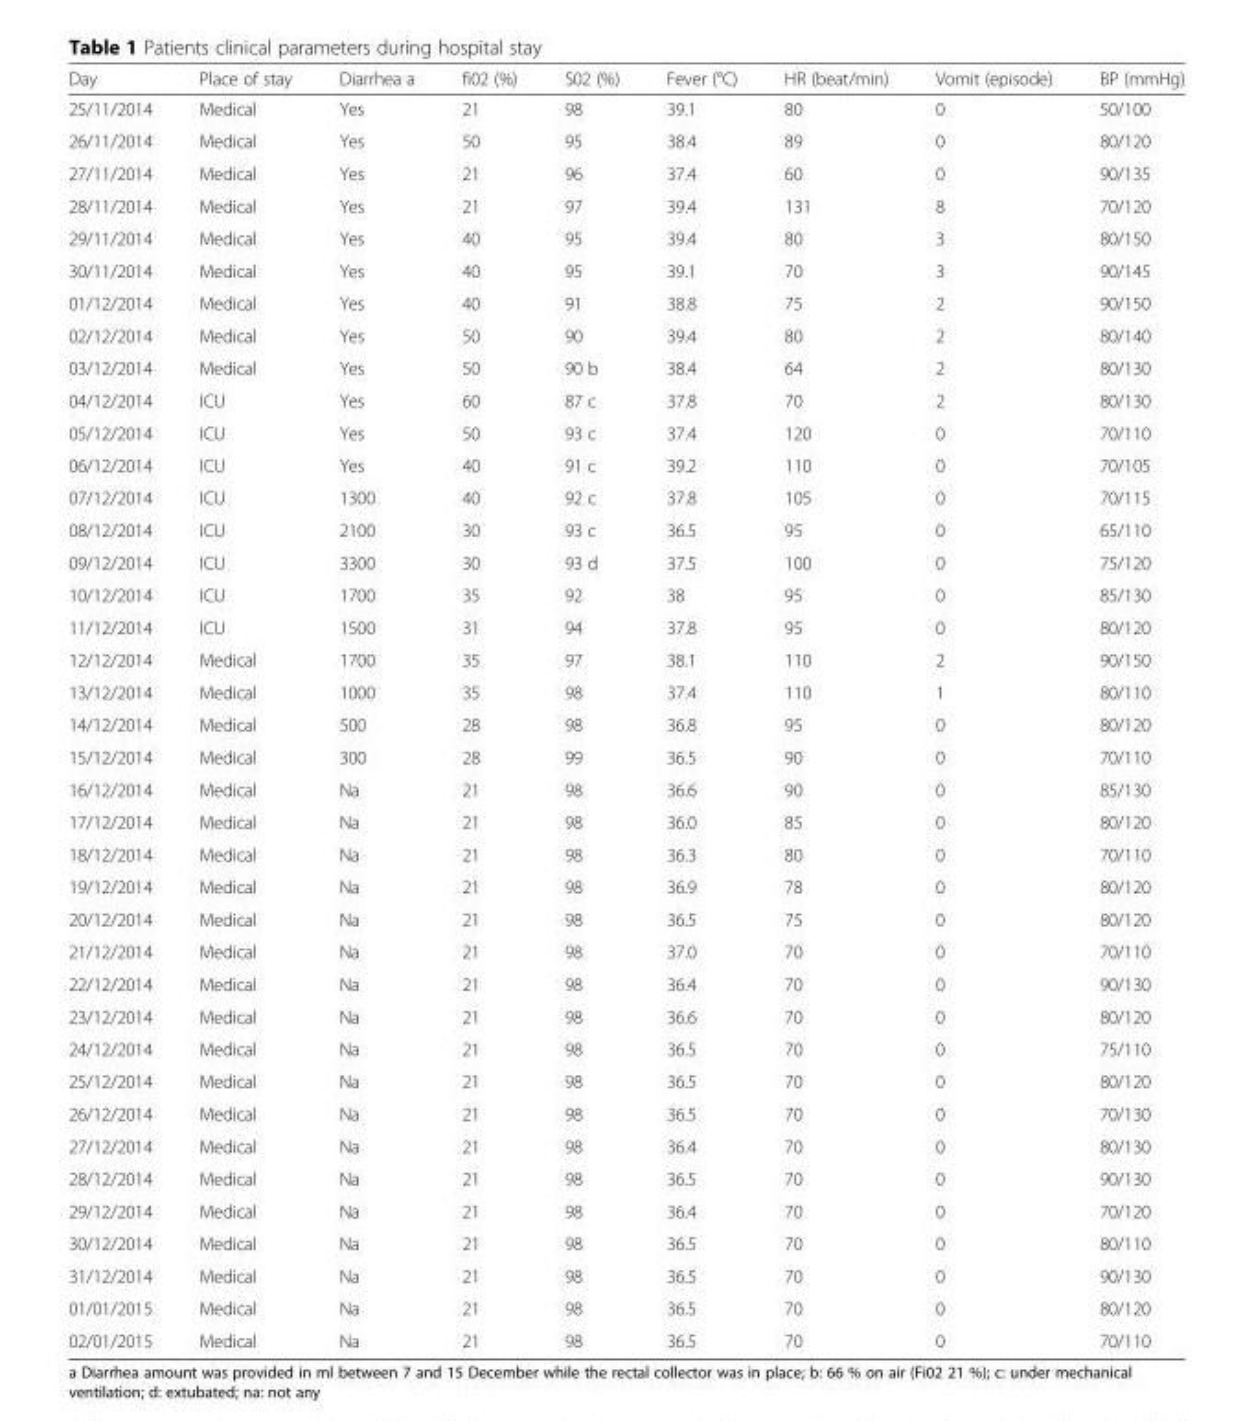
<table><thead><tr><td>Day</td><td>Place of stay</td><td>Diarrhea a</td><td>fi02 (%)</td><td>S02 (%)</td><td>Fever (°C)</td><td>HR (beat/min)</td><td>Vomit (episode)</td><td>BP (mmHg)</td></tr></thead><tbody><tr><td>25/11/2014</td><td>Medical</td><td>Yes</td><td>21</td><td>98</td><td>39.1</td><td>80</td><td>0</td><td>50/100</td></tr><tr><td>26/11/2014</td><td>Medical</td><td>Yes</td><td>50</td><td>95</td><td>38.4</td><td>89</td><td>0</td><td>80/120</td></tr><tr><td>27/11/2014</td><td>Medical</td><td>Yes</td><td>21</td><td>96</td><td>37.4</td><td>60</td><td>0</td><td>90/135</td></tr><tr><td>28/11/2014</td><td>Medical</td><td>Yes</td><td>21</td><td>97</td><td>39.4</td><td>131</td><td>8</td><td>70/120</td></tr><tr><td>29/11/2014</td><td>Medical</td><td>Yes</td><td>40</td><td>95</td><td>39.4</td><td>80</td><td>3</td><td>80/150</td></tr><tr><td>30/11/2014</td><td>Medical</td><td>Yes</td><td>40</td><td>95</td><td>39.1</td><td>70</td><td>3</td><td>90/145</td></tr><tr><td>01/12/2014</td><td>Medical</td><td>Yes</td><td>40</td><td>91</td><td>38.8</td><td>75</td><td>2</td><td>90/150</td></tr><tr><td>02/12/2014</td><td>Medical</td><td>Yes</td><td>50</td><td>90</td><td>39.4</td><td>80</td><td>2</td><td>80/140</td></tr><tr><td>03/12/2014</td><td>Medical</td><td>Yes</td><td>50</td><td>90 b</td><td>38.4</td><td>64</td><td>2</td><td>80/130</td></tr><tr><td>04/12/2014</td><td>ICU</td><td>Yes</td><td>60</td><td>87 c</td><td>37.8</td><td>70</td><td>2</td><td>80/130</td></tr><tr><td>05/12/2014</td><td>ICU</td><td>Yes</td><td>50</td><td>93 c</td><td>37.4</td><td>120</td><td>0</td><td>70/110</td></tr><tr><td>06/12/2014</td><td>ICU</td><td>Yes</td><td>40</td><td>91 c</td><td>39.2</td><td>110</td><td>0</td><td>70/105</td></tr><tr><td>07/12/2014</td><td>ICU</td><td>1300</td><td>40</td><td>92 c</td><td>37.8</td><td>105</td><td>0</td><td>70/115</td></tr><tr><td>08/12/2014</td><td>ICU</td><td>2100</td><td>30</td><td>93 c</td><td>36.5</td><td>95</td><td>0</td><td>65/110</td></tr><tr><td>09/12/2014</td><td>ICU</td><td>3300</td><td>30</td><td>93 d</td><td>37.5</td><td>100</td><td>0</td><td>75/120</td></tr><tr><td>10/12/2014</td><td>ICU</td><td>1700</td><td>35</td><td>92</td><td>38</td><td>95</td><td>0</td><td>85/130</td></tr><tr><td>11/12/2014</td><td>ICU</td><td>1500</td><td>31</td><td>94</td><td>37.8</td><td>95</td><td>0</td><td>80/120</td></tr><tr><td>12/12/2014</td><td>Medical</td><td>1700</td><td>35</td><td>97</td><td>38.1</td><td>110</td><td>2</td><td>90/150</td></tr><tr><td>13/12/2014</td><td>Medical</td><td>1000</td><td>35</td><td>98</td><td>37.4</td><td>110</td><td>1</td><td>80/110</td></tr><tr><td>14/12/2014</td><td>Medical</td><td>500</td><td>28</td><td>98</td><td>36.8</td><td>95</td><td>0</td><td>80/120</td></tr><tr><td>15/12/2014</td><td>Medical</td><td>300</td><td>28</td><td>99</td><td>36.5</td><td>90</td><td>0</td><td>70/110</td></tr><tr><td>16/12/2014</td><td>Medical</td><td>Na</td><td>21</td><td>98</td><td>36.6</td><td>90</td><td>0</td><td>85/130</td></tr><tr><td>17/12/2014</td><td>Medical</td><td>Na</td><td>21</td><td>98</td><td>36.0</td><td>85</td><td>0</td><td>80/120</td></tr><tr><td>18/12/2014</td><td>Medical</td><td>Na</td><td>21</td><td>98</td><td>36.3</td><td>80</td><td>0</td><td>70/110</td></tr><tr><td>19/12/2014</td><td>Medical</td><td>Na</td><td>21</td><td>98</td><td>36.9</td><td>78</td><td>0</td><td>80/120</td></tr><tr><td>20/12/2014</td><td>Medical</td><td>Na</td><td>21</td><td>98</td><td>36.5</td><td>75</td><td>0</td><td>80/120</td></tr><tr><td>21/12/2014</td><td>Medical</td><td>Na</td><td>21</td><td>98</td><td>37.0</td><td>70</td><td>0</td><td>70/110</td></tr><tr><td>22/12/2014</td><td>Medical</td><td>Na</td><td>21</td><td>98</td><td>36.4</td><td>70</td><td>0</td><td>90/130</td></tr><tr><td>23/12/2014</td><td>Medical</td><td>Na</td><td>21</td><td>98</td><td>36.6</td><td>70</td><td>0</td><td>80/120</td></tr><tr><td>24/12/2014</td><td>Medical</td><td>Na</td><td>21</td><td>98</td><td>36.5</td><td>70</td><td>0</td><td>75/110</td></tr><tr><td>25/12/2014</td><td>Medical</td><td>Na</td><td>21</td><td>98</td><td>36.5</td><td>70</td><td>0</td><td>80/120</td></tr><tr><td>26/12/2014</td><td>Medical</td><td>Na</td><td>21</td><td>98</td><td>36.5</td><td>70</td><td>0</td><td>70/130</td></tr><tr><td>27/12/2014</td><td>Medical</td><td>Na</td><td>21</td><td>98</td><td>36.4</td><td>70</td><td>0</td><td>80/130</td></tr><tr><td>28/12/2014</td><td>Medical</td><td>Na</td><td>21</td><td>98</td><td>36.5</td><td>70</td><td>0</td><td>90/130</td></tr><tr><td>29/12/2014</td><td>Medical</td><td>Na</td><td>21</td><td>98</td><td>36.4</td><td>70</td><td>0</td><td>70/120</td></tr><tr><td>30/12/2014</td><td>Medical</td><td>Na</td><td>21</td><td>98</td><td>36.5</td><td>70</td><td>0</td><td>80/110</td></tr><tr><td>31/12/2014</td><td>Medical</td><td>Na</td><td>21</td><td>98</td><td>36.5</td><td>70</td><td>0</td><td>90/130</td></tr><tr><td>01/01/2015</td><td>Medical</td><td>Na</td><td>21</td><td>98</td><td>36.5</td><td>70</td><td>0</td><td>80/120</td></tr><tr><td>02/01/2015</td><td>Medical</td><td>Na</td><td>21</td><td>98</td><td>36.5</td><td>70</td><td>0</td><td>70/110</td></tr></tbody></table>